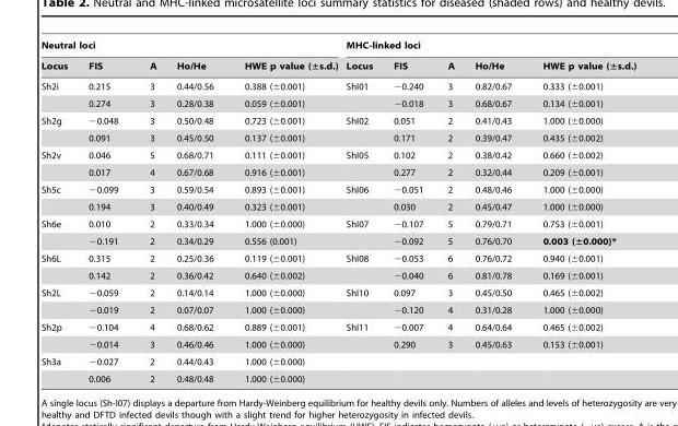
<table><thead><tr><td colspan="5">Neutral loci</td><td colspan="5">MHC-linked loci</td></tr><tr><td>Locus</td><td>FIS</td><td>A</td><td>Ho/He</td><td>HWE p value (±s.d.)</td><td>Locus</td><td>FIS</td><td>A</td><td>Ho/He</td><td>HWE p value (±s.d.)</td></tr></thead><tbody><tr><td rowspan="2">Sh2i</td><td>0.215</td><td>3</td><td>0.44/0.56</td><td>0.388 (±0.001)</td><td>ShI01</td><td>−0.240</td><td>3</td><td>0.82/0.67</td><td>0.333 (±0.001)</td></tr><tr><td>0.274</td><td>3</td><td>0.28/0.38</td><td>0.059 (±0.001)</td><td></td><td>−0.018</td><td>3</td><td>0.68/0.67</td><td>0.134 (±0.001)</td></tr><tr><td rowspan="2">Sh2g</td><td>−0.048</td><td>3</td><td>0.50/0.48</td><td>0.723 (±0.001)</td><td>ShI02</td><td>0.051</td><td>2</td><td>0.41/0.43</td><td>1.000 (±0.000)</td></tr><tr><td>0.091</td><td>3</td><td>0.45/0.50</td><td>0.137 (±0.001)</td><td></td><td>0.171</td><td>2</td><td>0.39/0.47</td><td>0.435 (±0.002)</td></tr><tr><td rowspan="2">Sh2v</td><td>0.046</td><td>5</td><td>0.68/0.71</td><td>0.111 (±0.001)</td><td>ShI05</td><td>0.102</td><td>2</td><td>0.38/0.42</td><td>0.660 (±0.002)</td></tr><tr><td>0.017</td><td>4</td><td>0.67/0.68</td><td>0.916 (±0.001)</td><td></td><td>0.277</td><td>2</td><td>0.32/0.44</td><td>0.209 (±0.001)</td></tr><tr><td rowspan="2">Sh5c</td><td>−0.099</td><td>3</td><td>0.59/0.54</td><td>0.893 (±0.001)</td><td>ShI06</td><td>−0.051</td><td>2</td><td>0.48/0.46</td><td>1.000 (±0.000)</td></tr><tr><td>0.194</td><td>3</td><td>0.40/0.49</td><td>0.323 (±0.001)</td><td></td><td>0.030</td><td>2</td><td>0.45/0.47</td><td>1.000 (±0.000)</td></tr><tr><td rowspan="2">Sh6e</td><td>0.010</td><td>2</td><td>0.33/0.34</td><td>1.000 (±0.000)</td><td>ShI07</td><td>−0.107</td><td>5</td><td>0.79/0.71</td><td>0.753 (±0.001)</td></tr><tr><td>−0.191</td><td>2</td><td>0.34/0.29</td><td>0.556 (0.001)</td><td></td><td>−0.092</td><td>5</td><td>0.76/0.70</td><td>0.003 (±0.000)*</td></tr><tr><td rowspan="2">Sh6L</td><td>0.315</td><td>2</td><td>0.25/0.36</td><td>0.119 (±0.001)</td><td>ShI08</td><td>−0.053</td><td>6</td><td>0.76/0.72</td><td>0.940 (±0.001)</td></tr><tr><td>0.142</td><td>2</td><td>0.36/0.42</td><td>0.640 (±0.002)</td><td></td><td>−0.040</td><td>6</td><td>0.81/0.78</td><td>0.169 (±0.001)</td></tr><tr><td rowspan="2">Sh2L</td><td>−0.059</td><td>2</td><td>0.14/0.14</td><td>1.000 (±0.000)</td><td>ShI10</td><td>0.097</td><td>3</td><td>0.45/0.50</td><td>0.465 (±0.002)</td></tr><tr><td>−0.019</td><td>2</td><td>0.07/0.07</td><td>1.000 (±0.000)</td><td></td><td>−0.120</td><td>4</td><td>0.31/0.28</td><td>1.000 (±0.000)</td></tr><tr><td rowspan="2">Sh2p</td><td>−0.104</td><td>4</td><td>0.68/0.62</td><td>0.889 (±0.001)</td><td>ShI11</td><td>−0.007</td><td>4</td><td>0.64/0.64</td><td>0.465 (±0.002)</td></tr><tr><td>−0.014</td><td>3</td><td>0.46/0.46</td><td>1.000 (±0.000)</td><td></td><td>0.290</td><td>3</td><td>0.45/0.63</td><td>0.153 (±0.001)</td></tr><tr><td rowspan="2">Sh3a</td><td>−0.027</td><td>2</td><td>0.44/0.43</td><td>1.000 (±0.000)</td><td></td><td></td><td></td><td></td><td></td></tr><tr><td>0.006</td><td>2</td><td>0.48/0.48</td><td>1.000 (±0.000)</td><td></td><td></td><td></td><td></td><td></td></tr></tbody></table>